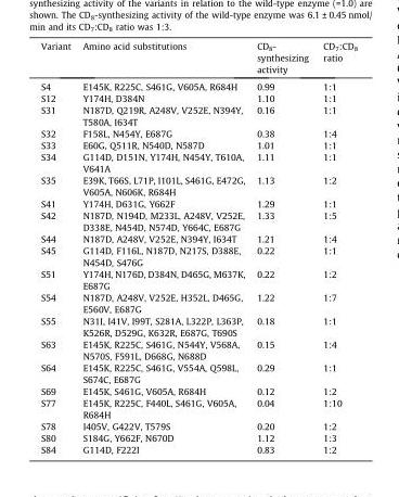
<table><thead><tr><td>Variant</td><td>Amino acid substitutions</td><td>CD<sub>8</sub>- synthesizing activity</td><td>CD<sub>7</sub>:CD<sub>8</sub> ratio</td></tr></thead><tbody><tr><td>S4</td><td>E145K, R225C, S461G, V605A, R684H</td><td>0.99</td><td>1:1</td></tr><tr><td>S12</td><td>Y174H, D384N</td><td>1.10</td><td>1:1</td></tr><tr><td>S31</td><td>N187D, Q219R, A248V, V252E, N394Y, T580A, I634T</td><td>0.16</td><td>1:1</td></tr><tr><td>S32</td><td>F158L, N454Y, E687G</td><td>0.38</td><td>1:4</td></tr><tr><td>S33</td><td>E60G, Q511R, N540D, N587D</td><td>1.01</td><td>1:1</td></tr><tr><td>S34</td><td>G114D, D151N, Y174H, N454Y, T610A, V641A</td><td>1.11</td><td>1:1</td></tr><tr><td>S35</td><td>E39K, T66S, L71P, I101L, S461G, E472G, V605A, N606K, R684H</td><td>1.13</td><td>1:2</td></tr><tr><td>S41</td><td>Y174H, D631G, Y662F</td><td>1.29</td><td>1:1</td></tr><tr><td>S42</td><td>N187D, N194D, M233L, A248V, V252E, D338E, N454D, N574D, Y664C, E687G</td><td>1.33</td><td>1:5</td></tr><tr><td>S44</td><td>N187D, A248V, V252E, N394Y, I634T</td><td>1.21</td><td>1:4</td></tr><tr><td>S45</td><td>G114D, F116L, N187D, N217S, D388E, N454D, S476G</td><td>0.22</td><td>1:1</td></tr><tr><td>S51</td><td>Y174H, N176D, D384N, D465G, M637K, E687G</td><td>0.22</td><td>1:2</td></tr><tr><td>S54</td><td>N187D, A248V, V252E, H352L, D465G, E560V, E687G</td><td>1.22</td><td>1:7</td></tr><tr><td>S55</td><td>N31I, I41V, I99T, S281A, L322P, L363P, K526R, D529G, K632R, E687G, T690S</td><td>0.18</td><td>1:1</td></tr><tr><td>S63</td><td>E145K, R225C, S461G, N544Y, V568A, N570S, F591L, D668G, N688D</td><td>0.15</td><td>1:4</td></tr><tr><td>S64</td><td>E145K, R225C, S461G, V554A, Q598L, S674C, E687G</td><td>0.29</td><td>1:1</td></tr><tr><td>S69</td><td>E145K, S461G, V605A, R684H</td><td>0.12</td><td>1:2</td></tr><tr><td>S77</td><td>E145K, R225C, F440L, S461G, V605A, R684H</td><td>0.04</td><td>1:10</td></tr><tr><td>S78</td><td>I405V, G422V, T579S</td><td>0.20</td><td>1:2</td></tr><tr><td>S80</td><td>S184G, Y662F, N670D</td><td>1.12</td><td>1:3</td></tr><tr><td>S84</td><td>G114D, F222I</td><td>0.83</td><td>1:2</td></tr></tbody></table>